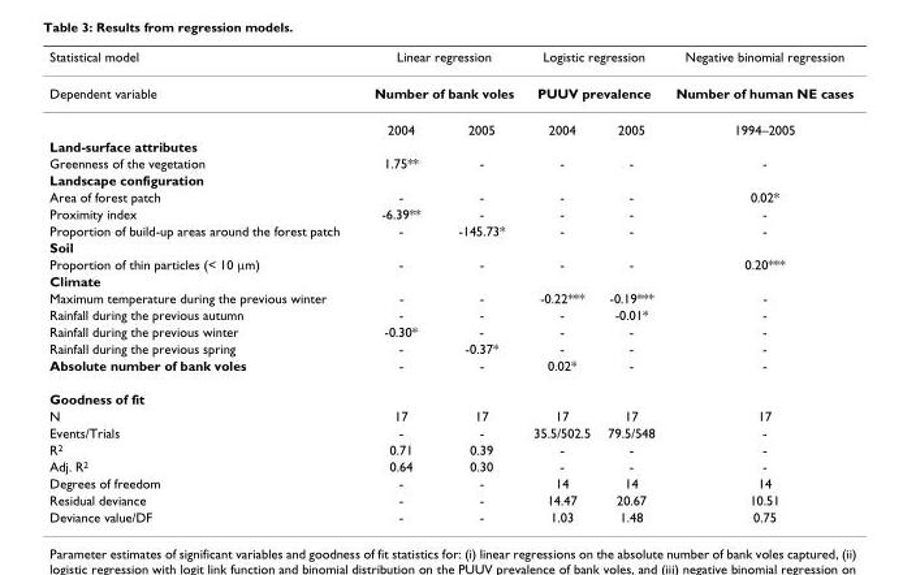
<table><thead><tr><td rowspan="3">Statistical model Dependent variable</td><td rowspan="2" colspan="2">Linear regression Number of bank voles</td><td rowspan="2" colspan="2">Logistic regression PUUV prevalence</td><td rowspan="3">Negative binomial regression Number of human NE cases 1994–2005</td></tr><tr></tr><tr><td>2004</td><td>2005</td><td>2004</td><td>2005</td></tr></thead><tbody><tr><td colspan="6">Land-surface attributes</td></tr><tr><td>Greenness of the vegetation</td><td>1.75**</td><td>-</td><td>-</td><td>-</td><td>-</td></tr><tr><td colspan="6">Landscape configuration</td></tr><tr><td>Area of forest patch</td><td>-</td><td>-</td><td>-</td><td>-</td><td>0.02*</td></tr><tr><td>Proximity index</td><td>-6.39**</td><td>-</td><td>-</td><td>-</td><td>-</td></tr><tr><td>Proportion of build-up areas around the forest patch</td><td>-</td><td>-145.73*</td><td>-</td><td>-</td><td>-</td></tr><tr><td colspan="6">Soil</td></tr><tr><td>Proportion of thin particles (&lt; 10 µm)</td><td>-</td><td>-</td><td>-</td><td>-</td><td>0.20***</td></tr><tr><td colspan="6">Climate</td></tr><tr><td>Maximum temperature during the previous winter</td><td>-</td><td>-</td><td>-0.22***</td><td>-0.19***</td><td>-</td></tr><tr><td>Rainfall during the previous autumn</td><td>-</td><td>-</td><td>-</td><td>-0.01*</td><td>-</td></tr><tr><td>Rainfall during the previous winter</td><td>-0.30*</td><td>-</td><td>-</td><td>-</td><td>-</td></tr><tr><td>Rainfall during the previous spring</td><td>-</td><td>-0.37*</td><td>-</td><td>-</td><td>-</td></tr><tr><td>Absolute number of bank voles</td><td>-</td><td>-</td><td>0.02*</td><td>-</td><td>-</td></tr><tr><td colspan="6">Goodness of fit</td></tr><tr><td>N</td><td>17</td><td>17</td><td>17</td><td>17</td><td>17</td></tr><tr><td>Events/Trials</td><td>-</td><td>-</td><td>35.5/502.5</td><td>79.5/548</td><td>-</td></tr><tr><td>R<sup>2</sup></td><td>0.71</td><td>0.39</td><td>-</td><td>-</td><td>-</td></tr><tr><td>Adj. R<sup>2</sup></td><td>0.64</td><td>0.30</td><td>-</td><td>-</td><td>-</td></tr><tr><td>Degrees of freedom</td><td>-</td><td>-</td><td>14</td><td>14</td><td>14</td></tr><tr><td>Residual deviance</td><td>-</td><td>-</td><td>14.47</td><td>20.67</td><td>10.51</td></tr><tr><td>Deviance value/DF</td><td>-</td><td>-</td><td>1.03</td><td>1.48</td><td>0.75</td></tr></tbody></table>